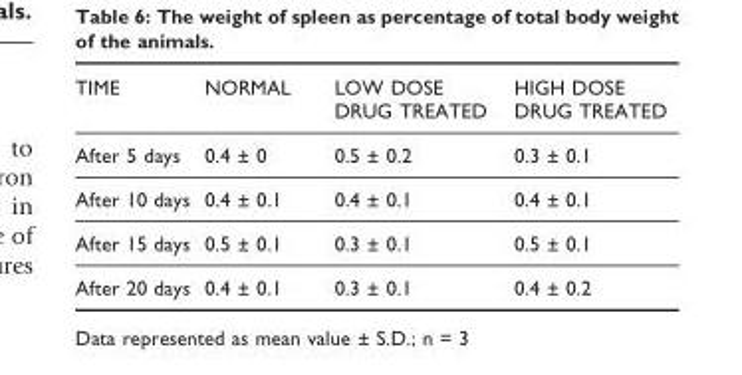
<table><thead><tr><td>TIME</td><td>NORMAL</td><td>LOW DOSE DRUG TREATED</td><td>HIGH DOSE DRUG TREATED</td></tr></thead><tbody><tr><td>After 5 days</td><td>0.4 ± 0</td><td>0.5 ± 0.2</td><td>0.3 ± 0.1</td></tr><tr><td>After 10 days</td><td>0.4 ± 0.1</td><td>0.4 ± 0.1</td><td>0.4 ± 0.1</td></tr><tr><td>After 15 days</td><td>0.5 ± 0.1</td><td>0.3 ± 0.1</td><td>0.5 ± 0.1</td></tr><tr><td>After 20 days</td><td>0.4 ± 0.1</td><td>0.3 ± 0.1</td><td>0.4 ± 0.2</td></tr></tbody></table>